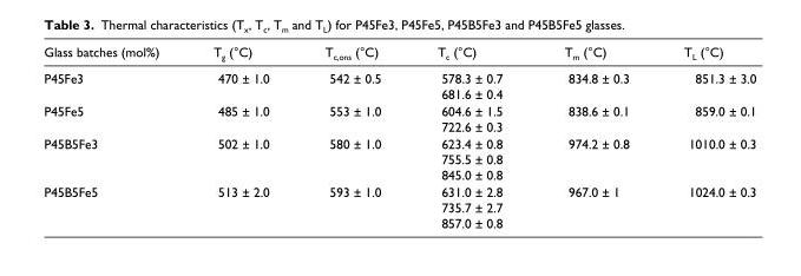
<table><thead><tr><td>Glass batches (mol%)</td><td>T<sub>g</sub> (°C)</td><td>T<sub>c,ons</sub> (°C)</td><td>T<sub>c</sub> (°C)</td><td>T<sub>m</sub> (°C)</td><td>T<sub>L</sub> (°C)</td></tr></thead><tbody><tr><td>P45Fe3</td><td>470 ± 1.0</td><td>542 ± 0.5</td><td>578.3 ± 0.7 681.6 ± 0.4</td><td>834.8 ± 0.3</td><td>851.3 ± 3.0</td></tr><tr><td>P45Fe5</td><td>485 ± 1.0</td><td>553 ± 1.0</td><td>604.6 ± 1.5 722.6 ± 0.3</td><td>838.6 ± 0.1</td><td>859.0 ± 0.1</td></tr><tr><td>P45B5Fe3</td><td>502 ± 1.0</td><td>580 ± 1.0</td><td>623.4 ± 0.8 755.5 ± 0.8 845.0 ± 0.8</td><td>974.2 ± 0.8</td><td>1010.0 ± 0.3</td></tr><tr><td>P45B5Fe5</td><td>513 ± 2.0</td><td>593 ± 1.0</td><td>631.0 ± 2.8 735.7 ± 2.7 857.0 ± 0.8</td><td>967.0 ± 1</td><td>1024.0 ± 0.3</td></tr></tbody></table>